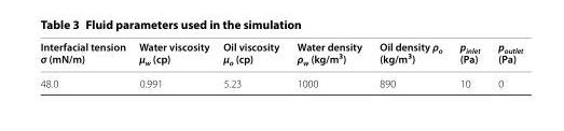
<table><thead><tr><td>Interfacial tension σ (mN/m)</td><td>Water viscosity μ<sub>w</sub> (cp)</td><td>Oil viscosity μ<sub>o</sub> (cp)</td><td>Water density ρ<sub>w</sub> (kg/m<sup>3</sup>)</td><td>Oil density ρ<sub>o</sub> (kg/m<sup>3</sup>)</td><td>p<sub>inlet</sub> (Pa)</td><td>p<sub>outlet</sub> (Pa)</td></tr></thead><tbody><tr><td>48.0</td><td>0.991</td><td>5.23</td><td>1000</td><td>890</td><td>10</td><td>0</td></tr></tbody></table>